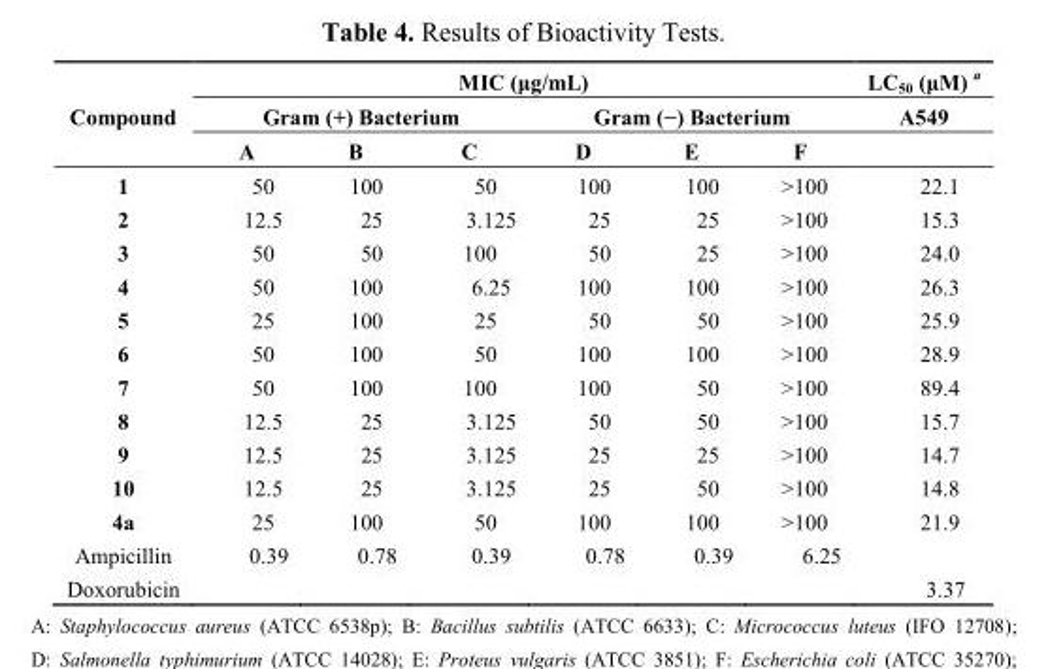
<table><thead><tr><td rowspan="3">Compound</td><td colspan="6">MIC (μg/mL)</td><td rowspan="3">LC<sub>50</sub> (μM) <sup>a</sup> A549</td></tr><tr><td colspan="3">Gram (+) Bacterium</td><td colspan="3">Gram (−) Bacterium</td></tr><tr><td>A</td><td>B</td><td>C</td><td>D</td><td>E</td><td>F</td></tr></thead><tbody><tr><td>1</td><td>50</td><td>100</td><td>50</td><td>100</td><td>100</td><td>&gt;100</td><td>22.1</td></tr><tr><td>2</td><td>12.5</td><td>25</td><td>3.125</td><td>25</td><td>25</td><td>&gt;100</td><td>15.3</td></tr><tr><td>3</td><td>50</td><td>50</td><td>100</td><td>50</td><td>25</td><td>&gt;100</td><td>24.0</td></tr><tr><td>4</td><td>50</td><td>100</td><td>6.25</td><td>100</td><td>100</td><td>&gt;100</td><td>26.3</td></tr><tr><td>5</td><td>25</td><td>100</td><td>25</td><td>50</td><td>50</td><td>&gt;100</td><td>25.9</td></tr><tr><td>6</td><td>50</td><td>100</td><td>50</td><td>100</td><td>100</td><td>&gt;100</td><td>28.9</td></tr><tr><td>7</td><td>50</td><td>100</td><td>100</td><td>100</td><td>50</td><td>&gt;100</td><td>89.4</td></tr><tr><td>8</td><td>12.5</td><td>25</td><td>3.125</td><td>50</td><td>50</td><td>&gt;100</td><td>15.7</td></tr><tr><td>9</td><td>12.5</td><td>25</td><td>3.125</td><td>25</td><td>25</td><td>&gt;100</td><td>14.7</td></tr><tr><td>10</td><td>12.5</td><td>25</td><td>3.125</td><td>25</td><td>50</td><td>&gt;100</td><td>14.8</td></tr><tr><td>4a</td><td>25</td><td>100</td><td>50</td><td>100</td><td>100</td><td>&gt;100</td><td>21.9</td></tr><tr><td>Ampicillin</td><td>0.39</td><td>0.78</td><td>0.39</td><td>0.78</td><td>0.39</td><td>6.25</td><td></td></tr><tr><td>Doxorubicin</td><td></td><td></td><td></td><td></td><td></td><td></td><td>3.37</td></tr></tbody></table>